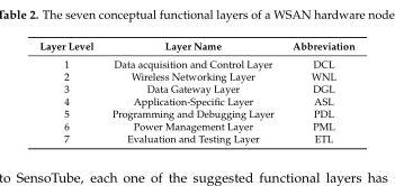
<table><thead><tr><td>Layer Level</td><td>Layer Name</td><td>Abbreviation</td></tr></thead><tbody><tr><td>1</td><td>Data acquisition and Control Layer</td><td>DCL</td></tr><tr><td>2</td><td>Wireless Networking Layer</td><td>WNL</td></tr><tr><td>3</td><td>Data Gateway Layer</td><td>DGL</td></tr><tr><td>4</td><td>Application-Specific Layer</td><td>ASL</td></tr><tr><td>5</td><td>Programming and Debugging Layer</td><td>PDL</td></tr><tr><td>6</td><td>Power Management Layer</td><td>PML</td></tr><tr><td>7</td><td>Evaluation and Testing Layer</td><td>ETL</td></tr></tbody></table>